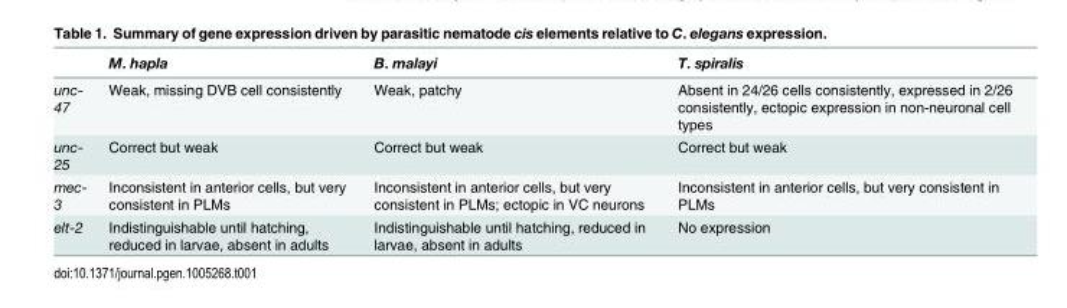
<table><thead><tr><td></td><td>M. hapla</td><td>B. malayi</td><td>T. spiralis</td></tr></thead><tbody><tr><td>unc- 47</td><td>Weak, missing DVB cell consistently</td><td>Weak, patchy</td><td>Absent in 24/26 cells consistently, expressed in 2/26 consistently, ectopic expression in non-neuronal cell types</td></tr><tr><td>unc- 25</td><td>Correct but weak</td><td>Correct but weak</td><td>Correct but weak</td></tr><tr><td>mec- 3</td><td>Inconsistent in anterior cells, but very consistent in PLMs</td><td>Inconsistent in anterior cells, but very consistent in PLMs; ectopic in VC neurons</td><td>Inconsistent in anterior cells, but very consistent in PLMs</td></tr><tr><td>elt-2</td><td>Indistinguishable until hatching, reduced in larvae, absent in adults</td><td>Indistinguishable until hatching, reduced in larvae, absent in adults</td><td>No expression</td></tr></tbody></table>